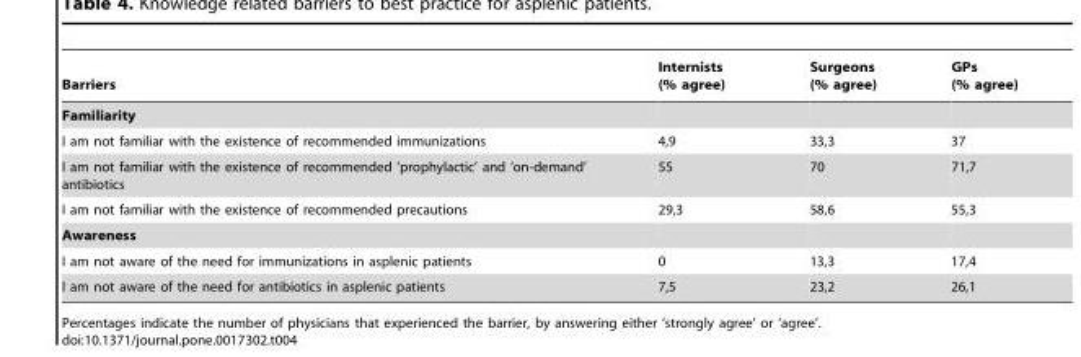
<table><thead><tr><td>Barriers</td><td>Internists (% agree)</td><td>Surgeons (% agree)</td><td>GPs (% agree)</td></tr></thead><tbody><tr><td colspan="4">Familiarity</td></tr><tr><td>I am not familiar with the existence of recommended immunizations</td><td>4,9</td><td>33,3</td><td>37</td></tr><tr><td>I am not familiar with the existence of recommended ‘prophylactic’ and ‘on-demand’ antibiotics</td><td>55</td><td>70</td><td>71,7</td></tr><tr><td>I am not familiar with the existence of recommended precautions</td><td>29,3</td><td>58,6</td><td>55,3</td></tr><tr><td colspan="4">Awareness</td></tr><tr><td>I am not aware of the need for immunizations in asplenic patients</td><td>0</td><td>13,3</td><td>17,4</td></tr><tr><td>I am not aware of the need for antibiotics in asplenic patients</td><td>7,5</td><td>23,2</td><td>26,1</td></tr></tbody></table>